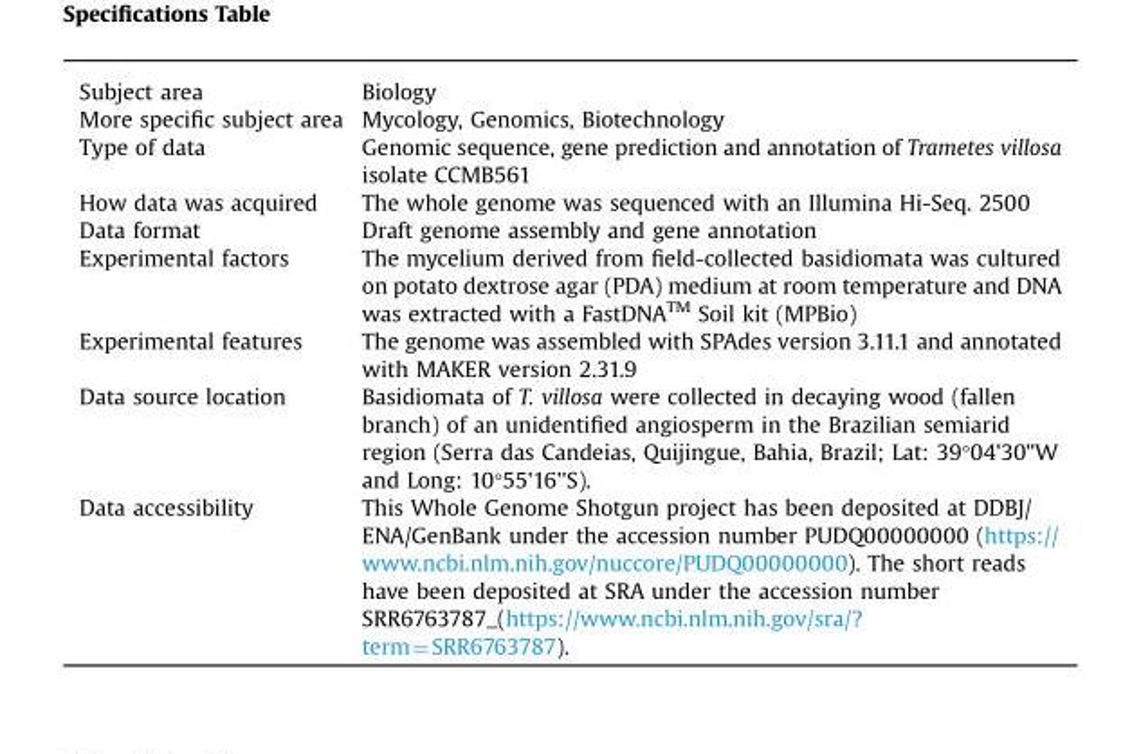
<table><tbody><tr><td>Subject area</td><td>Biology</td></tr><tr><td>More specific subject area</td><td>Mycology, Genomics, Biotechnology</td></tr><tr><td>Type of data</td><td>Genomic sequence, gene prediction and annotation of Trametes villosa isolate CCMB561</td></tr><tr><td>How data was acquired</td><td>The whole genome was sequenced with an Illumina Hi-Seq. 2500</td></tr><tr><td>Data format</td><td>Draft genome assembly and gene annotation</td></tr><tr><td>Experimental factors</td><td>The mycelium derived from field-collected basidiomata was cultured on potato dextrose agar (PDA) medium at room temperature and DNA was extracted with a FastDNA<sup>TM</sup> Soil kit (MPBio)</td></tr><tr><td>Experimental features</td><td>The genome was assembled with SPAdes version 3.11.1 and annotated with MAKER version 2.31.9</td></tr><tr><td>Data source location</td><td>Basidiomata of T. villosa were collected in decaying wood (fallen branch) of an unidentified angiosperm in the Brazilian semiarid region (Serra das Candeias, Quijingue, Bahia, Brazil; Lat: 39°04&#x27;30&quot;W and Long: 10°55&#x27;16&#x27;&#x27;S).</td></tr><tr><td>Data accessibility</td><td>This Whole Genome Shotgun project has been deposited at DDBJ/ ENA/GenBank under the accession number PUDQ00000000 (https:// www.ncbi.nlm.nih.gov/nuccore/PUDQ00000000). The short reads have been deposited at SRA under the accession number SRR6763787_(https://www.ncbi.nlm.nih.gov/sra/? term=SRR6763787).</td></tr></tbody></table>